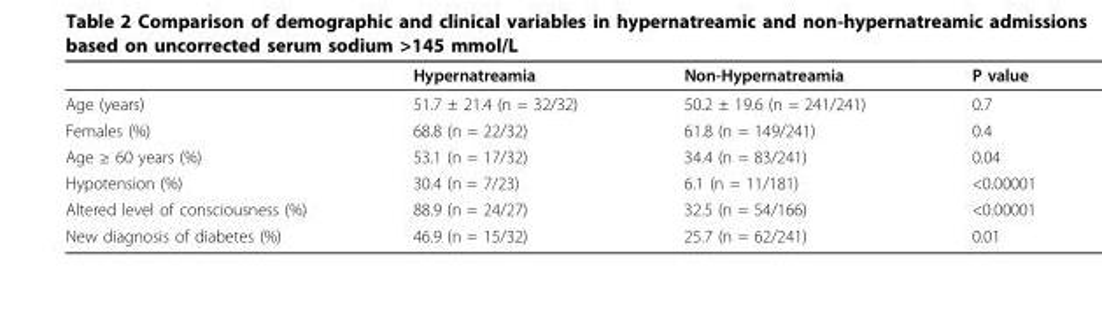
<table><thead><tr><td></td><td>Hypernatreamia</td><td>Non-Hypernatreamia</td><td>P value</td></tr></thead><tbody><tr><td>Age (years)</td><td>51.7 ± 21.4 (n = 32/32)</td><td>50.2 ± 19.6 (n = 241/241)</td><td>0.7</td></tr><tr><td>Females (%)</td><td>68.8 (n = 22/32)</td><td>61.8 (n = 149/241)</td><td>0.4</td></tr><tr><td>Age ≥ 60 years (%)</td><td>53.1 (n = 17/32)</td><td>34.4 (n = 83/241)</td><td>0.04</td></tr><tr><td>Hypotension (%)</td><td>30.4 (n = 7/23)</td><td>6.1 (n = 11/181)</td><td>&lt;0.00001</td></tr><tr><td>Altered level of consciousness (%)</td><td>88.9 (n = 24/27)</td><td>32.5 (n = 54/166)</td><td>&lt;0.00001</td></tr><tr><td>New diagnosis of diabetes (%)</td><td>46.9 (n = 15/32)</td><td>25.7 (n = 62/241)</td><td>0.01</td></tr></tbody></table>